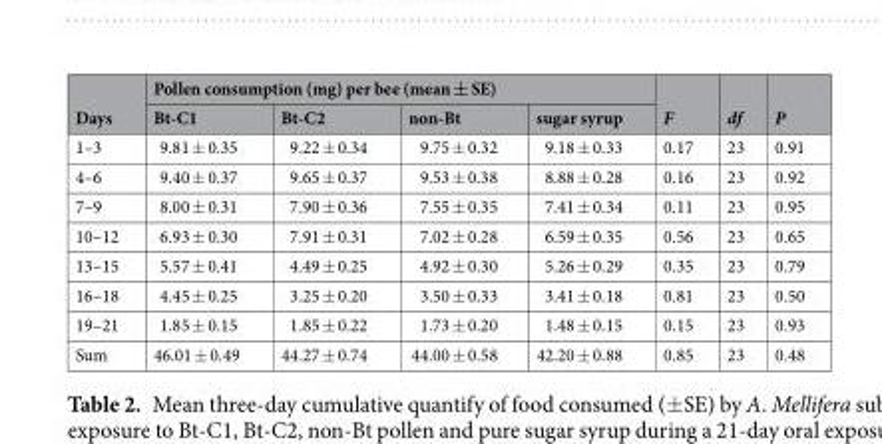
<table><thead><tr><td rowspan="2">Days</td><td colspan="4">Pollen consumption (mg) per bee (mean ± SE)</td><td rowspan="2">F</td><td rowspan="2">df</td><td rowspan="2">P</td></tr><tr><td>Bt-C1</td><td>Bt-C2</td><td>non-Bt</td><td>sugar syrup</td></tr></thead><tbody><tr><td>1–3</td><td>9.81 ± 0.35</td><td>9.22 ± 0.34</td><td>9.75 ± 0.32</td><td>9.18 ± 0.33</td><td>0.17</td><td>23</td><td>0.91</td></tr><tr><td>4–6</td><td>9.40 ± 0.37</td><td>9.65 ± 0.37</td><td>9.53 ± 0.38</td><td>8.88 ± 0.28</td><td>0.16</td><td>23</td><td>0.92</td></tr><tr><td>7–9</td><td>8.00 ± 0.31</td><td>7.90 ± 0.36</td><td>7.55 ± 0.35</td><td>7.41 ± 0.34</td><td>0.11</td><td>23</td><td>0.95</td></tr><tr><td>10–12</td><td>6.93 ± 0.30</td><td>7.91 ± 0.31</td><td>7.02 ± 0.28</td><td>6.59 ± 0.35</td><td>0.56</td><td>23</td><td>0.65</td></tr><tr><td>13–15</td><td>5.57 ± 0.41</td><td>4.49 ± 0.25</td><td>4.92 ± 0.30</td><td>5.26 ± 0.29</td><td>0.35</td><td>23</td><td>0.79</td></tr><tr><td>16–18</td><td>4.45 ± 0.25</td><td>3.25 ± 0.20</td><td>3.50 ± 0.33</td><td>3.41 ± 0.18</td><td>0.81</td><td>23</td><td>0.50</td></tr><tr><td>19–21</td><td>1.85 ± 0.15</td><td>1.85 ± 0.22</td><td>1.73 ± 0.20</td><td>1.48 ± 0.15</td><td>0.15</td><td>23</td><td>0.93</td></tr><tr><td>Sum</td><td>46.01 ± 0.49</td><td>44.27 ± 0.74</td><td>44.00 ± 0.58</td><td>42.20 ± 0.88</td><td>0.85</td><td>23</td><td>0.48</td></tr></tbody></table>